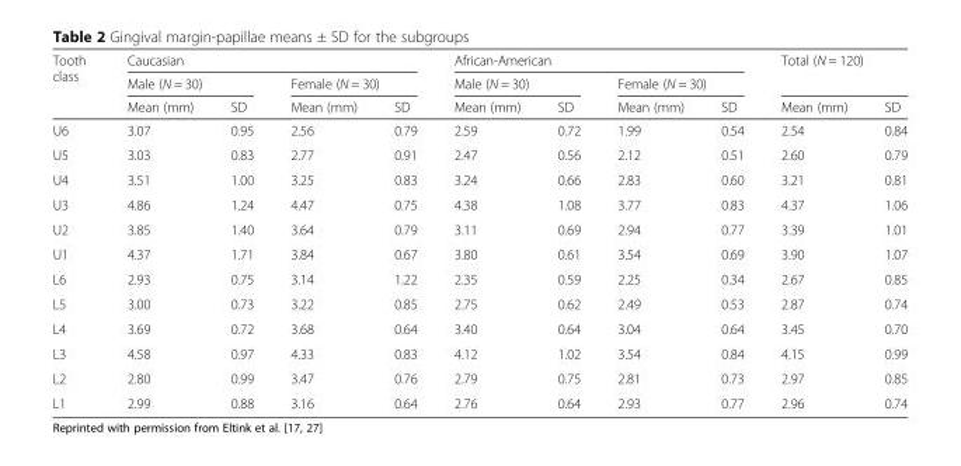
<table><thead><tr><td rowspan="3">Tooth class</td><td colspan="4">Caucasian</td><td colspan="4">African-American</td><td rowspan="2" colspan="2">Total (N = 120)</td></tr><tr><td colspan="2">Male (N = 30)</td><td colspan="2">Female (N = 30)</td><td colspan="2">Male (N = 30)</td><td colspan="2">Female (N = 30)</td></tr><tr><td>Mean (mm)</td><td>SD</td><td>Mean (mm)</td><td>SD</td><td>Mean (mm)</td><td>SD</td><td>Mean (mm)</td><td>SD</td><td>Mean (mm)</td><td>SD</td></tr></thead><tbody><tr><td>U6</td><td>3.07</td><td>0.95</td><td>2.56</td><td>0.79</td><td>2.59</td><td>0.72</td><td>1.99</td><td>0.54</td><td>2.54</td><td>0.84</td></tr><tr><td>U5</td><td>3.03</td><td>0.83</td><td>2.77</td><td>0.91</td><td>2.47</td><td>0.56</td><td>2.12</td><td>0.51</td><td>2.60</td><td>0.79</td></tr><tr><td>U4</td><td>3.51</td><td>1.00</td><td>3.25</td><td>0.83</td><td>3.24</td><td>0.66</td><td>2.83</td><td>0.60</td><td>3.21</td><td>0.81</td></tr><tr><td>U3</td><td>4.86</td><td>1.24</td><td>4.47</td><td>0.75</td><td>4.38</td><td>1.08</td><td>3.77</td><td>0.83</td><td>4.37</td><td>1.06</td></tr><tr><td>U2</td><td>3.85</td><td>1.40</td><td>3.64</td><td>0.79</td><td>3.11</td><td>0.69</td><td>2.94</td><td>0.77</td><td>3.39</td><td>1.01</td></tr><tr><td>U1</td><td>4.37</td><td>1.71</td><td>3.84</td><td>0.67</td><td>3.80</td><td>0.61</td><td>3.54</td><td>0.69</td><td>3.90</td><td>1.07</td></tr><tr><td>L6</td><td>2.93</td><td>0.75</td><td>3.14</td><td>1.22</td><td>2.35</td><td>0.59</td><td>2.25</td><td>0.34</td><td>2.67</td><td>0.85</td></tr><tr><td>L5</td><td>3.00</td><td>0.73</td><td>3.22</td><td>0.85</td><td>2.75</td><td>0.62</td><td>2.49</td><td>0.53</td><td>2.87</td><td>0.74</td></tr><tr><td>L4</td><td>3.69</td><td>0.72</td><td>3.68</td><td>0.64</td><td>3.40</td><td>0.64</td><td>3.04</td><td>0.64</td><td>3.45</td><td>0.70</td></tr><tr><td>L3</td><td>4.58</td><td>0.97</td><td>4.33</td><td>0.83</td><td>4.12</td><td>1.02</td><td>3.54</td><td>0.84</td><td>4.15</td><td>0.99</td></tr><tr><td>L2</td><td>2.80</td><td>0.99</td><td>3.47</td><td>0.76</td><td>2.79</td><td>0.75</td><td>2.81</td><td>0.73</td><td>2.97</td><td>0.85</td></tr><tr><td>L1</td><td>2.99</td><td>0.88</td><td>3.16</td><td>0.64</td><td>2.76</td><td>0.64</td><td>2.93</td><td>0.77</td><td>2.96</td><td>0.74</td></tr></tbody></table>